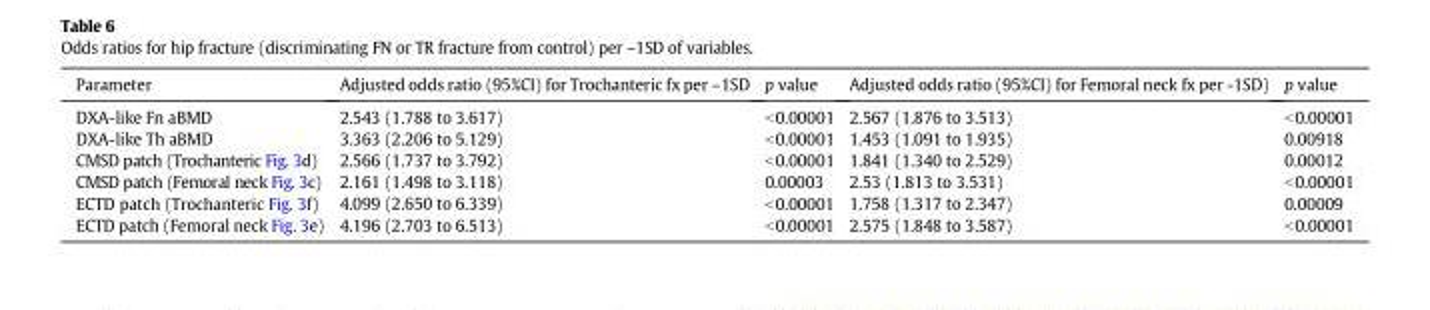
<table><thead><tr><td>Parameter</td><td>Adjusted odds ratio (95%CI) for Trochanteric fx per –1SD</td><td>p value</td><td>Adjusted odds ratio (95%CI) for Femoral neck fx per -1SD)</td><td>p value</td></tr></thead><tbody><tr><td>DXA-like Fn aBMD</td><td rowspan="6">2.543 (1.788 to 3.617) 3.363 (2.206 to 5.129) 2.566 (1.737 to 3.792) 2.161 (1.498 to 3.118) 4.099 (2.650 to 6.339) 4.196 (2.703 to 6.513)</td><td>&lt;0.00001</td><td rowspan="6">2.567 (1.876 to 3.513) 1.453 (1.091 to 1.935) 1.841 (1.340 to 2.529) 2.53 (1.813 to 3.531) 1.758 (1.317 to 2.347) 2.575 (1.848 to 3.587)</td><td>&lt;0.00001</td></tr><tr><td>DXA-like Th aBMD</td><td>&lt;0.00001</td><td>0.00918</td></tr><tr><td>CMSD patch (Trochanteric Fig. 3d)</td><td>&lt;0.00001</td><td>0.00012</td></tr><tr><td>CMSD patch (Femoral neck Fig. 3c)</td><td>0.00003</td><td>&lt;0.00001</td></tr><tr><td>ECTD patch (Trochanteric Fig. 3f)</td><td>&lt;0.00001</td><td>0.00009</td></tr><tr><td>ECTD patch (Femoral neck Fig. 3e)</td><td>&lt;0.00001</td><td>&lt;0.00001</td></tr></tbody></table>